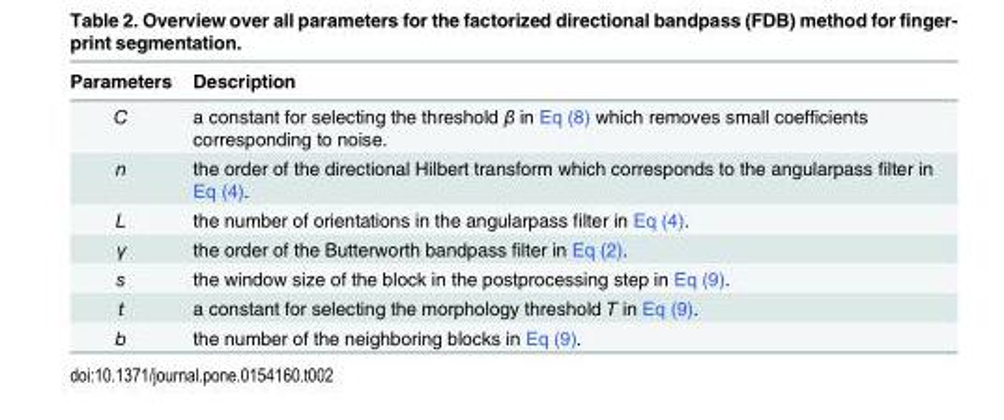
<table><thead><tr><td>Parameters</td><td>Description</td></tr></thead><tbody><tr><td>C</td><td>a constant for selecting the threshold β in Eq (8) which removes small coefficients corresponding to noise.</td></tr><tr><td>n</td><td>the order of the directional Hilbert transform which corresponds to the angularpass filter in Eq (4).</td></tr><tr><td>L</td><td>the number of orientations in the angularpass filter in Eq (4).</td></tr><tr><td>γ</td><td>the order of the Butterworth bandpass filter in Eq (2).</td></tr><tr><td>s</td><td>the window size of the block in the postprocessing step in Eq (9).</td></tr><tr><td>t</td><td>a constant for selecting the morphology threshold T in Eq (9).</td></tr><tr><td>b</td><td>the number of the neighboring blocks in Eq (9).</td></tr></tbody></table>